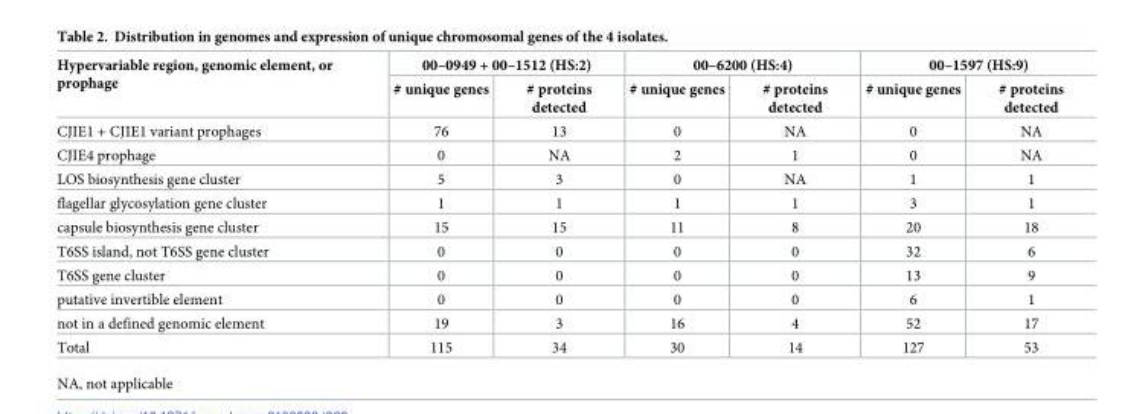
<table><thead><tr><td rowspan="2">Hypervariable region, genomic element, or prophage</td><td colspan="2">00–0949 + 00–1512 (HS:2)</td><td colspan="2">00–6200 (HS:4)</td><td colspan="2">00–1597 (HS:9)</td></tr><tr><td># unique genes</td><td># proteins detected</td><td># unique genes</td><td># proteins detected</td><td># unique genes</td><td># proteins detected</td></tr></thead><tbody><tr><td>CJIE1 + CJIE1 variant prophages</td><td>76</td><td>13</td><td>0</td><td>NA</td><td>0</td><td>NA</td></tr><tr><td>CJIE4 prophage</td><td>0</td><td>NA</td><td>2</td><td>1</td><td>0</td><td>NA</td></tr><tr><td>LOS biosynthesis gene cluster</td><td>5</td><td>3</td><td>0</td><td>NA</td><td>1</td><td>1</td></tr><tr><td>flagellar glycosylation gene cluster</td><td>1</td><td>1</td><td>1</td><td>1</td><td>3</td><td>1</td></tr><tr><td>capsule biosynthesis gene cluster</td><td>15</td><td>15</td><td>11</td><td>8</td><td>20</td><td>18</td></tr><tr><td>T6SS island, not T6SS gene cluster</td><td>0</td><td>0</td><td>0</td><td>0</td><td>32</td><td>6</td></tr><tr><td>T6SS gene cluster</td><td>0</td><td>0</td><td>0</td><td>0</td><td>13</td><td>9</td></tr><tr><td>putative invertible element</td><td>0</td><td>0</td><td>0</td><td>0</td><td>6</td><td>1</td></tr><tr><td>not in a defined genomic element</td><td>19</td><td>3</td><td>16</td><td>4</td><td>52</td><td>17</td></tr><tr><td>Total</td><td>115</td><td>34</td><td>30</td><td>14</td><td>127</td><td>53</td></tr></tbody></table>